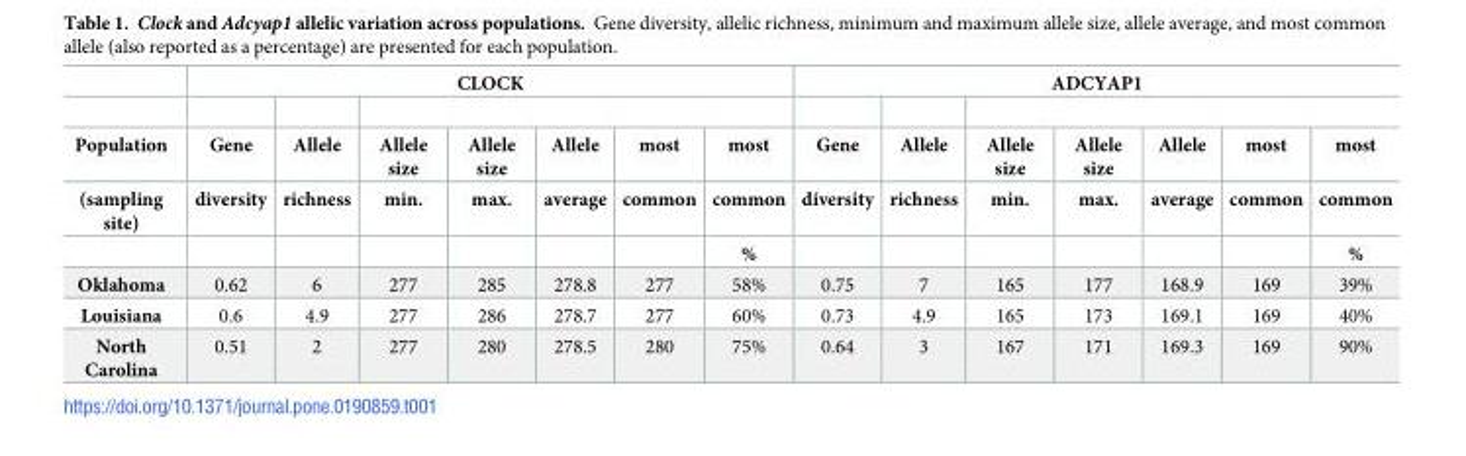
<table><thead><tr><td rowspan="4">Population (sampling site)</td><td colspan="7">CLOCK</td><td colspan="7">ADCYAP1</td></tr><tr><td rowspan="3">Gene diversity</td><td rowspan="3">Allele richness</td><td rowspan="3">Allele size min.</td><td rowspan="3">Allele size max.</td><td rowspan="3">Allele average</td><td rowspan="3">most common</td><td rowspan="3">most common %</td><td rowspan="3">Gene diversity</td><td rowspan="3">Allele richness</td><td rowspan="3">Allele size min.</td><td rowspan="3">Allele size max.</td><td rowspan="3">Allele average</td><td rowspan="3">most common</td><td rowspan="3">most common %</td></tr><tr></tr><tr></tr></thead><tbody><tr><td>Oklahoma</td><td>0.62</td><td>6</td><td>277</td><td>285</td><td>278.8</td><td>277</td><td>58%</td><td>0.75</td><td>7</td><td>165</td><td>177</td><td>168.9</td><td>169</td><td>39%</td></tr><tr><td>Louisiana</td><td>0.6</td><td>4.9</td><td>277</td><td>286</td><td>278.7</td><td>277</td><td>60%</td><td>0.73</td><td>4.9</td><td>165</td><td>173</td><td>169.1</td><td>169</td><td>40%</td></tr><tr><td>North Carolina</td><td>0.51</td><td>2</td><td>277</td><td>280</td><td>278.5</td><td>280</td><td>75%</td><td>0.64</td><td>3</td><td>167</td><td>171</td><td>169.3</td><td>169</td><td>90%</td></tr></tbody></table>